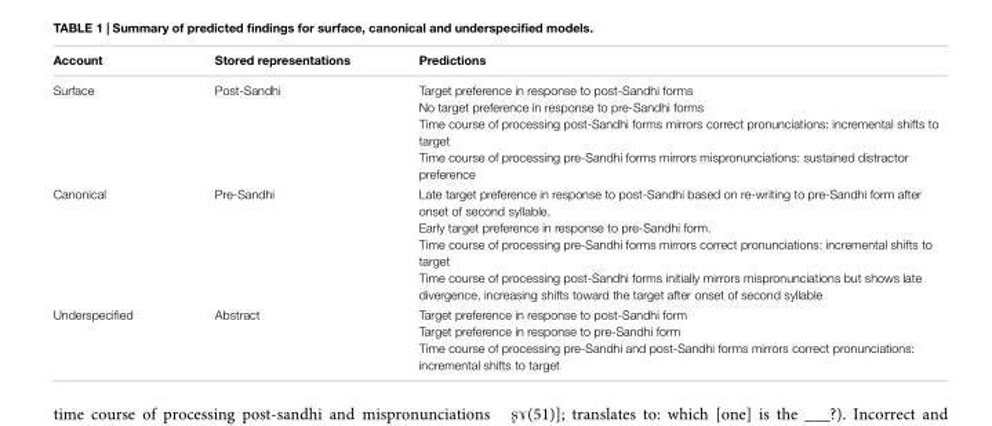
<table><thead><tr><td>Account</td><td>Stored representations</td><td>Predictions</td></tr></thead><tbody><tr><td>Surface</td><td>Post-Sandhi</td><td>Target preference in response to post-Sandhi forms No target preference in response to pre-Sandhi forms Time course of processing post-Sandhi forms mirrors correct pronunciations: incremental shifts to target Time course of processing pre-Sandhi forms mirrors mispronunciations: sustained distractor preference</td></tr><tr><td>Canonical</td><td>Pre-Sandhi</td><td>Late target preference in response to post-Sandhi based on re-writing to pre-Sandhi form after onset of second syllable. Early target preference in response to pre-Sandhi form. Time course of processing pre-Sandhi forms mirrors correct pronunciations: incremental shifts to target Time course of processing post-Sandhi forms initially mirrors mispronunciations but shows late divergence, increasing shifts toward the target after onset of second syllable</td></tr><tr><td>Underspecified</td><td>Abstract</td><td>Target preference in response to post-Sandhi form Target preference in response to pre-Sandhi form Time course of processing pre-Sandhi and post-Sandhi forms mirrors correct pronunciations: incremental shifts to target</td></tr></tbody></table>